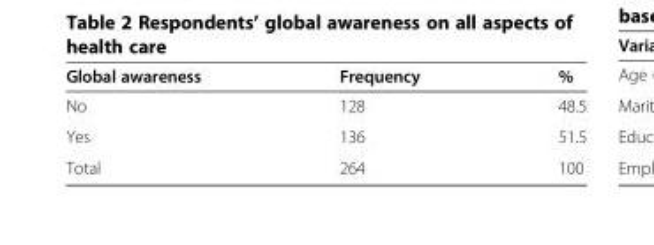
<table><thead><tr><td>Global awareness</td><td>Frequency</td><td>%</td></tr></thead><tbody><tr><td>No</td><td>128</td><td>48.5</td></tr><tr><td>Yes</td><td>136</td><td>51.5</td></tr><tr><td>Total</td><td>264</td><td>100</td></tr></tbody></table>